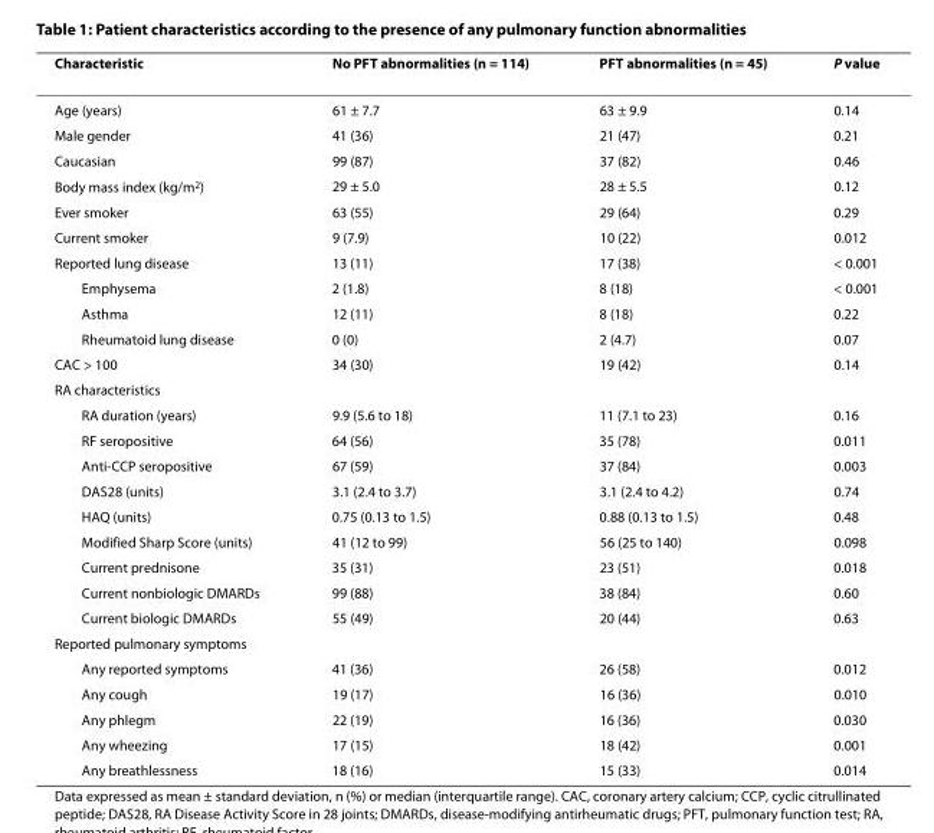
<table><thead><tr><td>Characteristic</td><td>No PFT abnormalities (n = 114)</td><td>PFT abnormalities (n = 45)</td><td>P value</td></tr></thead><tbody><tr><td>Age (years)</td><td>61 ± 7.7</td><td>63 ± 9.9</td><td>0.14</td></tr><tr><td>Male gender</td><td>41 (36)</td><td>21 (47)</td><td>0.21</td></tr><tr><td>Caucasian</td><td>99 (87)</td><td>37 (82)</td><td>0.46</td></tr><tr><td>Body mass index (kg/m<sup>2</sup>)</td><td>29 ± 5.0</td><td>28 ± 5.5</td><td>0.12</td></tr><tr><td>Ever smoker</td><td>63 (55)</td><td>29 (64)</td><td>0.29</td></tr><tr><td>Current smoker</td><td>9 (7.9)</td><td>10 (22)</td><td>0.012</td></tr><tr><td>Reported lung disease</td><td>13 (11)</td><td>17 (38)</td><td>&lt; 0.001</td></tr><tr><td>Emphysema</td><td>2 (1.8)</td><td>8 (18)</td><td>&lt; 0.001</td></tr><tr><td>Asthma</td><td>12 (11)</td><td>8 (18)</td><td>0.22</td></tr><tr><td>Rheumatoid lung disease</td><td>0 (0)</td><td>2 (4.7)</td><td>0.07</td></tr><tr><td>CAC &gt; 100</td><td>34 (30)</td><td>19 (42)</td><td>0.14</td></tr><tr><td colspan="4">RA characteristics</td></tr><tr><td>RA duration (years)</td><td>9.9 (5.6 to 18)</td><td>11 (7.1 to 23)</td><td>0.16</td></tr><tr><td>RF seropositive</td><td>64 (56)</td><td>35 (78)</td><td>0.011</td></tr><tr><td>Anti-CCP seropositive</td><td>67 (59)</td><td>37 (84)</td><td>0.003</td></tr><tr><td>DAS28 (units)</td><td>3.1 (2.4 to 3.7)</td><td>3.1 (2.4 to 4.2)</td><td>0.74</td></tr><tr><td>HAQ (units)</td><td>0.75 (0.13 to 1.5)</td><td>0.88 (0.13 to 1.5)</td><td>0.48</td></tr><tr><td>Modified Sharp Score (units)</td><td>41 (12 to 99)</td><td>56 (25 to 140)</td><td>0.098</td></tr><tr><td>Current prednisone</td><td>35 (31)</td><td>23 (51)</td><td>0.018</td></tr><tr><td>Current nonbiologic DMARDs</td><td>99 (88)</td><td>38 (84)</td><td>0.60</td></tr><tr><td>Current biologic DMARDs</td><td>55 (49)</td><td>20 (44)</td><td>0.63</td></tr><tr><td colspan="4">Reported pulmonary symptoms</td></tr><tr><td>Any reported symptoms</td><td>41 (36)</td><td>26 (58)</td><td>0.012</td></tr><tr><td>Any cough</td><td>19 (17)</td><td>16 (36)</td><td>0.010</td></tr><tr><td>Any phlegm</td><td>22 (19)</td><td>16 (36)</td><td>0.030</td></tr><tr><td>Any wheezing</td><td>17 (15)</td><td>18 (42)</td><td>0.001</td></tr><tr><td>Any breathlessness</td><td>18 (16)</td><td>15 (33)</td><td>0.014</td></tr></tbody></table>